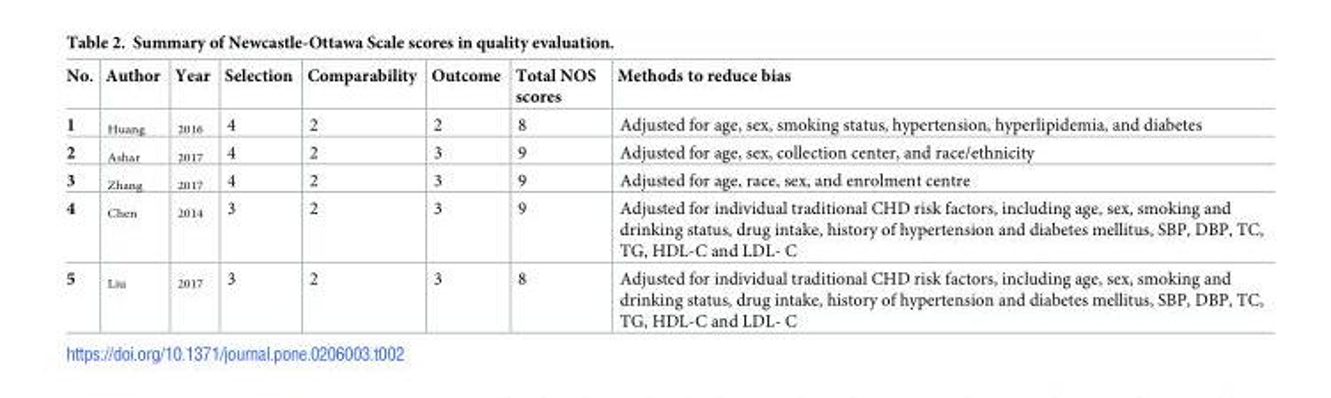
<table><thead><tr><td>No.</td><td>Author</td><td>Year</td><td>Selection</td><td>Comparability</td><td>Outcome</td><td>Total NOS scores</td><td>Methods to reduce bias</td></tr></thead><tbody><tr><td>1</td><td><sub>Huang</sub></td><td><sub>2016</sub></td><td>4</td><td>2</td><td>2</td><td>8</td><td>Adjusted for age, sex, smoking status, hypertension, hyperlipidemia, and diabetes</td></tr><tr><td>2</td><td><sub>Ashar</sub></td><td><sub>2017</sub></td><td>4</td><td>2</td><td>3</td><td>9</td><td>Adjusted for age, sex, collection center, and race/ethnicity</td></tr><tr><td>3</td><td><sub>Zhang</sub></td><td><sub>2017</sub></td><td>4</td><td>2</td><td>3</td><td>9</td><td>Adjusted for age, race, sex, and enrolment centre</td></tr><tr><td>4</td><td><sub>Chen</sub></td><td><sub>2014</sub></td><td>3</td><td>2</td><td>3</td><td>9</td><td>Adjusted for individual traditional CHD risk factors, including age, sex, smoking and drinking status, drug intake, history of hypertension and diabetes mellitus, SBP, DBP, TC, TG, HDL-C and LDL- C</td></tr><tr><td>5</td><td><sub>Liu</sub></td><td><sub>2017</sub></td><td>3</td><td>2</td><td>3</td><td>8</td><td>Adjusted for individual traditional CHD risk factors, including age, sex, smoking and drinking status, drug intake, history of hypertension and diabetes mellitus, SBP, DBP, TC, TG, HDL-C and LDL- C</td></tr></tbody></table>